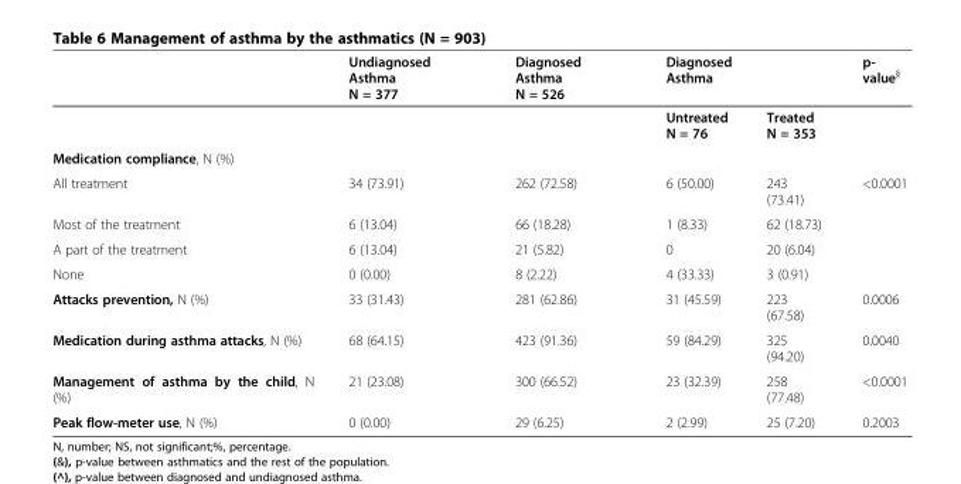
<table><thead><tr><td rowspan="2"></td><td rowspan="2">Undiagnosed Asthma N = 377</td><td rowspan="2">Diagnosed Asthma N = 526</td><td colspan="2">Diagnosed Asthma</td><td rowspan="2">p- value<sup>§</sup></td></tr><tr><td>Untreated N = 76</td><td>Treated N = 353</td></tr></thead><tbody><tr><td colspan="6">Medication compliance, N (%)</td></tr><tr><td>All treatment</td><td>34 (73.91)</td><td>262 (72.58)</td><td>6 (50.00)</td><td>243 (73.41)</td><td>&lt;0.0001</td></tr><tr><td>Most of the treatment</td><td>6 (13.04)</td><td>66 (18.28)</td><td>1 (8.33)</td><td>62 (18.73)</td><td></td></tr><tr><td>A part of the treatment</td><td>6 (13.04)</td><td>21 (5.82)</td><td>0</td><td>20 (6.04)</td><td></td></tr><tr><td>None</td><td>0 (0.00)</td><td>8 (2.22)</td><td>4 (33.33)</td><td>3 (0.91)</td><td></td></tr><tr><td>Attacks prevention, N (%)</td><td>33 (31.43)</td><td>281 (62.86)</td><td>31 (45.59)</td><td>223 (67.58)</td><td>0.0006</td></tr><tr><td>Medication during asthma attacks, N (%)</td><td>68 (64.15)</td><td>423 (91.36)</td><td>59 (84.29)</td><td>325 (94.20)</td><td>0.0040</td></tr><tr><td>Management of asthma by the child, N (%)</td><td>21 (23.08)</td><td>300 (66.52)</td><td>23 (32.39)</td><td>258 (77.48)</td><td>&lt;0.0001</td></tr><tr><td>Peak flow-meter use, N (%)</td><td>0 (0.00)</td><td>29 (6.25)</td><td>2 (2.99)</td><td>25 (7.20)</td><td>0.2003</td></tr></tbody></table>